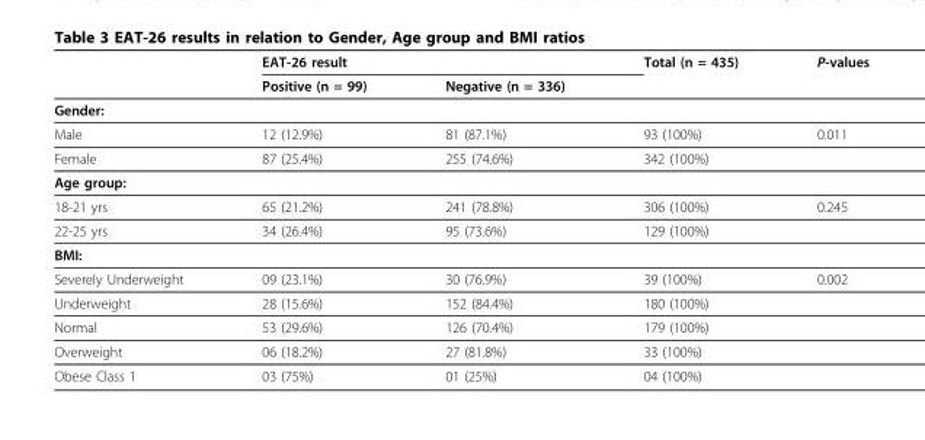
<table><thead><tr><td rowspan="2"></td><td colspan="2">EAT-26 result</td><td rowspan="2">Total (n = 435)</td><td rowspan="2">P-values</td></tr><tr><td>Positive (n = 99)</td><td>Negative (n = 336)</td></tr></thead><tbody><tr><td colspan="5">Gender:</td></tr><tr><td>Male</td><td>12 (12.9%)</td><td>81 (87.1%)</td><td>93 (100%)</td><td>0.011</td></tr><tr><td>Female</td><td>87 (25.4%)</td><td>255 (74.6%)</td><td>342 (100%)</td><td></td></tr><tr><td colspan="5">Age group:</td></tr><tr><td>18-21 yrs</td><td>65 (21.2%)</td><td>241 (78.8%)</td><td>306 (100%)</td><td>0.245</td></tr><tr><td>22-25 yrs</td><td>34 (26.4%)</td><td>95 (73.6%)</td><td>129 (100%)</td><td></td></tr><tr><td colspan="5">BMI:</td></tr><tr><td>Severely Underweight</td><td>09 (23.1%)</td><td>30 (76.9%)</td><td>39 (100%)</td><td>0.002</td></tr><tr><td>Underweight</td><td>28 (15.6%)</td><td>152 (84.4%)</td><td>180 (100%)</td><td></td></tr><tr><td>Normal</td><td>53 (29.6%)</td><td>126 (70.4%)</td><td>179 (100%)</td><td></td></tr><tr><td>Overweight</td><td>06 (18.2%)</td><td>27 (81.8%)</td><td>33 (100%)</td><td></td></tr><tr><td>Obese Class 1</td><td>03 (75%)</td><td>01 (25%)</td><td>04 (100%)</td><td></td></tr></tbody></table>